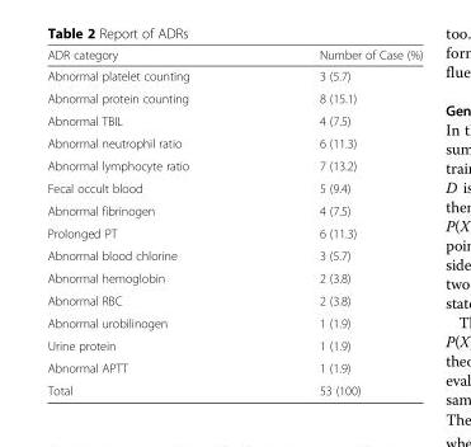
<table><thead><tr><td>ADR category</td><td>Number of Case (%)</td></tr></thead><tbody><tr><td>Abnormal platelet counting</td><td>3 (5.7)</td></tr><tr><td>Abnormal protein counting</td><td>8 (15.1)</td></tr><tr><td>Abnormal TBIL</td><td>4 (7.5)</td></tr><tr><td>Abnormal neutrophil ratio</td><td>6 (11.3)</td></tr><tr><td>Abnormal lymphocyte ratio</td><td>7 (13.2)</td></tr><tr><td>Fecal occult blood</td><td>5 (9.4)</td></tr><tr><td>Abnormal fibrinogen</td><td>4 (7.5)</td></tr><tr><td>Prolonged PT</td><td>6 (11.3)</td></tr><tr><td>Abnormal blood chlorine</td><td>3 (5.7)</td></tr><tr><td>Abnormal hemoglobin</td><td>2 (3.8)</td></tr><tr><td>Abnormal RBC</td><td>2 (3.8)</td></tr><tr><td>Abnormal urobilinogen</td><td>1 (1.9)</td></tr><tr><td>Urine protein</td><td>1 (1.9)</td></tr><tr><td>Abnormal APTT</td><td>1 (1.9)</td></tr><tr><td>Total</td><td>53 (100)</td></tr></tbody></table>